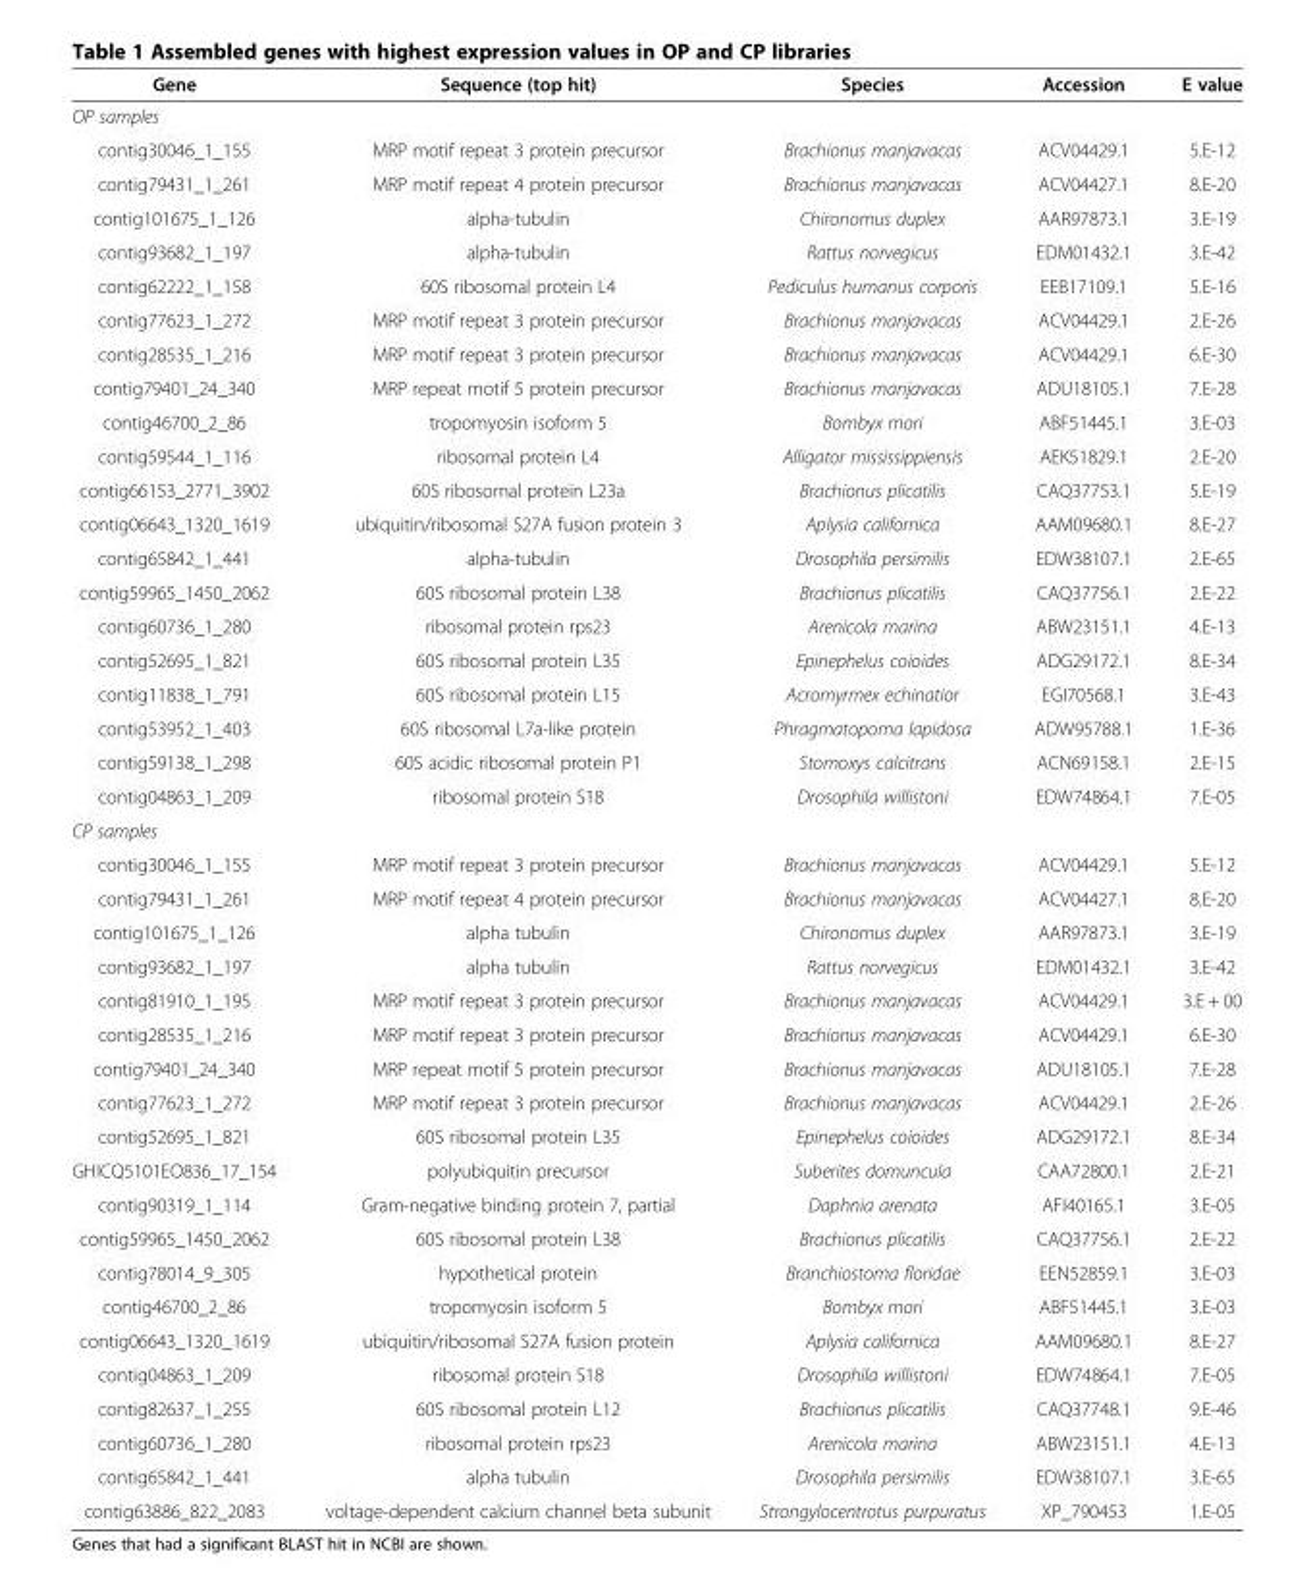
<table><thead><tr><td>Gene</td><td>Sequence (top hit)</td><td>Species</td><td>Accession</td><td>E value</td></tr></thead><tbody><tr><td colspan="5">OP samples</td></tr><tr><td>contig30046_1_155</td><td>MRP motif repeat 3 protein precursor</td><td>Brachionus manjavacas</td><td>ACV04429.1</td><td>5.E-12</td></tr><tr><td>contig79431_1_261</td><td>MRP motif repeat 4 protein precursor</td><td>Brachionus manjavacas</td><td>ACV04427.1</td><td>8.E-20</td></tr><tr><td>contig101675_1_126</td><td>alpha-tubulin</td><td>Chironomus duplex</td><td>AAR97873.1</td><td>3.E-19</td></tr><tr><td>contig93682_1_197</td><td>alpha-tubulin</td><td>Rattus norvegicus</td><td>EDM01432.1</td><td>3.E-42</td></tr><tr><td>contig62222_1_158</td><td>60S ribosomal protein L4</td><td>Pediculus humanus corporis</td><td>EEB17109.1</td><td>5.E-16</td></tr><tr><td>contig77623_1_272</td><td>MRP motif repeat 3 protein precursor</td><td>Brachionus manjavacas</td><td>ACV04429.1</td><td>2.E-26</td></tr><tr><td>contig28535_1_216</td><td>MRP motif repeat 3 protein precursor</td><td>Brachionus manjavacas</td><td>ACV04429.1</td><td>6.E-30</td></tr><tr><td>contig79401_24_340</td><td>MRP repeat motif 5 protein precursor</td><td>Brachionus manjavacas</td><td>ADU18105.1</td><td>7.E-28</td></tr><tr><td>contig46700_2_86</td><td>tropomyosin isoform 5</td><td>Bombyx mori</td><td>ABF51445.1</td><td>3.E-03</td></tr><tr><td>contig59544_1_116</td><td>ribosomal protein L4</td><td>Alligator mississippiensis</td><td>AEK51829.1</td><td>2.E-20</td></tr><tr><td>contig66153_2771_3902</td><td>60S ribosomal protein L23a</td><td>Brachionus plicatilis</td><td>CAQ37753.1</td><td>5.E-19</td></tr><tr><td>contig06643_1320_1619</td><td>ubiquitin/ribosomal S27A fusion protein 3</td><td>Aplysia californica</td><td>AAM09680.1</td><td>8.E-27</td></tr><tr><td>contig65842_1_441</td><td>alpha-tubulin</td><td>Drosophila persimilis</td><td>EDW38107.1</td><td>2.E-65</td></tr><tr><td>contig59965_1450_2062</td><td>60S ribosomal protein L38</td><td>Brachionus plicatilis</td><td>CAQ37756.1</td><td>2.E-22</td></tr><tr><td>contig60736_1_280</td><td>ribosomal protein rps23</td><td>Arenicola marina</td><td>ABW23151.1</td><td>4.E-13</td></tr><tr><td>contig52695_1_821</td><td>60S ribosomal protein L35</td><td>Epinephelus coioides</td><td>ADG29172.1</td><td>8.E-34</td></tr><tr><td>contig11838_1_791</td><td>60S ribosomal protein L15</td><td>Acromyrmex echinatior</td><td>EGI70568.1</td><td>3.E-43</td></tr><tr><td>contig53952_1_403</td><td>60S ribosomal L7a-like protein</td><td>Phragmatopoma lapidosa</td><td>ADW95788.1</td><td>1.E-36</td></tr><tr><td>contig59138_1_298</td><td>60S acidic ribosomal protein P1</td><td>Stomoxys calcitrans</td><td>ACN69158.1</td><td>2.E-15</td></tr><tr><td>contig04863_1_209</td><td>ribosomal protein S18</td><td>Drosophila willistoni</td><td>EDW74864.1</td><td>7.E-05</td></tr><tr><td colspan="5">CP samples</td></tr><tr><td>contig30046_1_155</td><td>MRP motif repeat 3 protein precursor</td><td>Brachionus manjavacas</td><td>ACV04429.1</td><td>5.E-12</td></tr><tr><td>contig79431_1_261</td><td>MRP motif repeat 4 protein precursor</td><td>Brachionus manjavacas</td><td>ACV04427.1</td><td>8.E-20</td></tr><tr><td>contig101675_1_126</td><td>alpha tubulin</td><td>Chironomus duplex</td><td>AAR97873.1</td><td>3.E-19</td></tr><tr><td>contig93682_1_197</td><td>alpha tubulin</td><td>Rattus norvegicus</td><td>EDM01432.1</td><td>3.E-42</td></tr><tr><td>contig81910_1_195</td><td>MRP motif repeat 3 protein precursor</td><td>Brachionus manjavacas</td><td>ACV04429.1</td><td>3.E + 00</td></tr><tr><td>contig28535_1_216</td><td>MRP motif repeat 3 protein precursor</td><td>Brachionus manjavacas</td><td>ACV04429.1</td><td>6.E-30</td></tr><tr><td>contig79401_24_340</td><td>MRP repeat motif 5 protein precursor</td><td>Brachionus manjavacas</td><td>ADU18105.1</td><td>7.E-28</td></tr><tr><td>contig77623_1_272</td><td>MRP motif repeat 3 protein precursor</td><td>Brachionus manjavacas</td><td>ACV04429.1</td><td>2.E-26</td></tr><tr><td>contig52695_1_821</td><td>60S ribosomal protein L35</td><td>Epinephelus coioides</td><td>ADG29172.1</td><td>8.E-34</td></tr><tr><td>GHICQ5101EO836_17_154</td><td>polyubiquitin precursor</td><td>Suberites domuncula</td><td>CAA72800.1</td><td>2.E-21</td></tr><tr><td>contig90319_1_114</td><td>Gram-negative binding protein 7, partial</td><td>Daphnia arenata</td><td>AFI40165.1</td><td>3.E-05</td></tr><tr><td>contig59965_1450_2062</td><td>60S ribosomal protein L38</td><td>Brachionus plicatilis</td><td>CAQ37756.1</td><td>2.E-22</td></tr><tr><td>contig78014_9_305</td><td>hypothetical protein</td><td>Branchiostoma floridae</td><td>EEN52859.1</td><td>3.E-03</td></tr><tr><td>contig46700_2_86</td><td>tropomyosin isoform 5</td><td>Bombyx mori</td><td>ABF51445.1</td><td>3.E-03</td></tr><tr><td>contig06643_1320_1619</td><td>ubiquitin/ribosomal S27A fusion protein</td><td>Aplysia californica</td><td>AAM09680.1</td><td>8.E-27</td></tr><tr><td>contig04863_1_209</td><td>ribosomal protein S18</td><td>Drosophila willistoni</td><td>EDW74864.1</td><td>7.E-05</td></tr><tr><td>contig82637_1_255</td><td>60S ribosomal protein L12</td><td>Brachionus plicatilis</td><td>CAQ37748.1</td><td>9.E-46</td></tr><tr><td>contig60736_1_280</td><td>ribosomal protein rps23</td><td>Arenicola marina</td><td>ABW23151.1</td><td>4.E-13</td></tr><tr><td>contig65842_1_441</td><td>alpha tubulin</td><td>Drosophila persimilis</td><td>EDW38107.1</td><td>3.E-65</td></tr><tr><td>contig63886_822_2083</td><td>voltage-dependent calcium channel beta subunit</td><td>Strongylocentrotus purpuratus</td><td>XP_790453</td><td>1.E-05</td></tr></tbody></table>